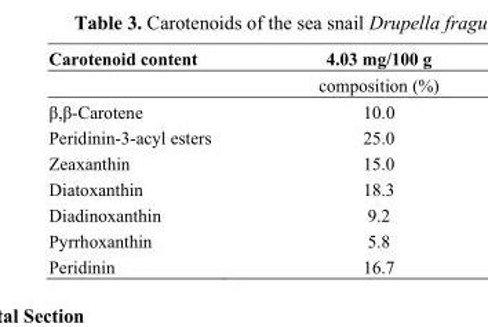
<table><thead><tr><td rowspan="2">Carotenoid content</td><td rowspan="2">4.03 mg/100 g composition (%)</td></tr><tr></tr></thead><tbody><tr><td>β,β-Carotene</td><td>10.0</td></tr><tr><td>Peridinin-3-acyl esters</td><td>25.0</td></tr><tr><td>Zeaxanthin</td><td>15.0</td></tr><tr><td>Diatoxanthin</td><td>18.3</td></tr><tr><td>Diadinoxanthin</td><td>9.2</td></tr><tr><td>Pyrrhoxanthin</td><td>5.8</td></tr><tr><td>Peridinin</td><td>16.7</td></tr></tbody></table>